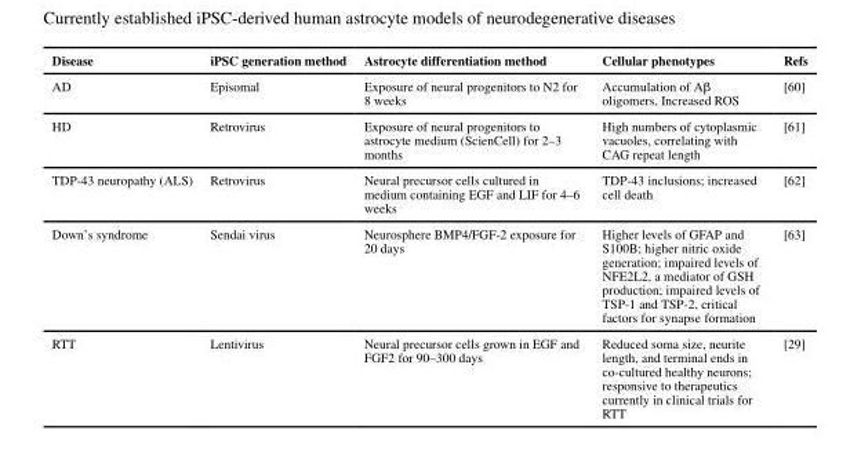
<table><thead><tr><td>Disease</td><td>iPSC generation method</td><td>Astrocyte differentiation method</td><td>Cellular phenotypes</td><td>Refs</td></tr></thead><tbody><tr><td>AD</td><td>Episomal</td><td>Exposure of neural progenitors to N2 for 8 weeks</td><td>Accumulation of Aβ oligomers, Increased ROS</td><td>[60]</td></tr><tr><td>HD</td><td>Retrovirus</td><td>Exposure of neural progenitors to astrocyte medium (ScienCell) for 2–3 months</td><td>High numbers of cytoplasmic vacuoles, correlating with CAG repeat length</td><td>[61]</td></tr><tr><td>TDP-43 neuropathy (ALS)</td><td>Retrovirus</td><td>Neural precursor cells cultured in medium containing EGF and LIF for 4–6 weeks</td><td>TDP-43 inclusions; increased cell death</td><td>[62]</td></tr><tr><td>Down’s syndrome</td><td>Sendai virus</td><td>Neurosphere BMP4/FGF-2 exposure for 20 days</td><td>Higher levels of GFAP and S100B; higher nitric oxide generation; impaired levels of NFE2L2, a mediator of GSH production; impaired levels of TSP-1 and TSP-2, critical factors for synapse formation</td><td>[63]</td></tr><tr><td>RTT</td><td>Lentivirus</td><td>Neural precursor cells grown in EGF and FGF2 for 90–300 days</td><td>Reduced soma size, neurite length, and terminal ends in co-cultured healthy neurons; responsive to therapeutics currently in clinical trials for RTT</td><td>[29]</td></tr></tbody></table>